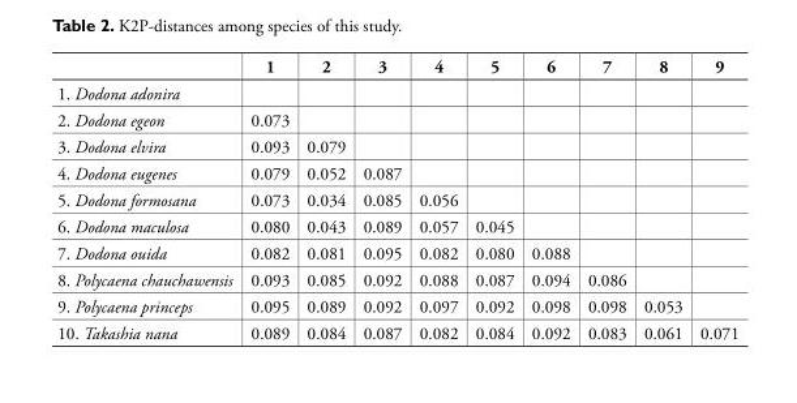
<table><thead><tr><td></td><td>1</td><td>2</td><td>3</td><td>4</td><td>5</td><td>6</td><td>7</td><td>8</td><td>9</td></tr></thead><tbody><tr><td colspan="10">1. Dodona adonira</td></tr><tr><td>2. Dodona egeon</td><td>0.073</td><td></td><td></td><td></td><td></td><td></td><td></td><td></td><td></td></tr><tr><td>3. Dodona elvira</td><td>0.093</td><td>0.079</td><td></td><td></td><td></td><td></td><td></td><td></td><td></td></tr><tr><td>4. Dodona eugenes</td><td>0.079</td><td>0.052</td><td>0.087</td><td></td><td></td><td></td><td></td><td></td><td></td></tr><tr><td>5. Dodona formosana</td><td>0.073</td><td>0.034</td><td>0.085</td><td>0.056</td><td></td><td></td><td></td><td></td><td></td></tr><tr><td>6. Dodona maculosa</td><td>0.080</td><td>0.043</td><td>0.089</td><td>0.057</td><td>0.045</td><td></td><td></td><td></td><td></td></tr><tr><td>7. Dodona ouida</td><td>0.082</td><td>0.081</td><td>0.095</td><td>0.082</td><td>0.080</td><td>0.088</td><td></td><td></td><td></td></tr><tr><td>8. Polycaena chauchawensis</td><td>0.093</td><td>0.085</td><td>0.092</td><td>0.088</td><td>0.087</td><td>0.094</td><td>0.086</td><td></td><td></td></tr><tr><td>9. Polycaena princeps</td><td>0.095</td><td>0.089</td><td>0.092</td><td>0.097</td><td>0.092</td><td>0.098</td><td>0.098</td><td>0.053</td><td></td></tr><tr><td>10. Takashia nana</td><td>0.089</td><td>0.084</td><td>0.087</td><td>0.082</td><td>0.084</td><td>0.092</td><td>0.083</td><td>0.061</td><td>0.071</td></tr></tbody></table>